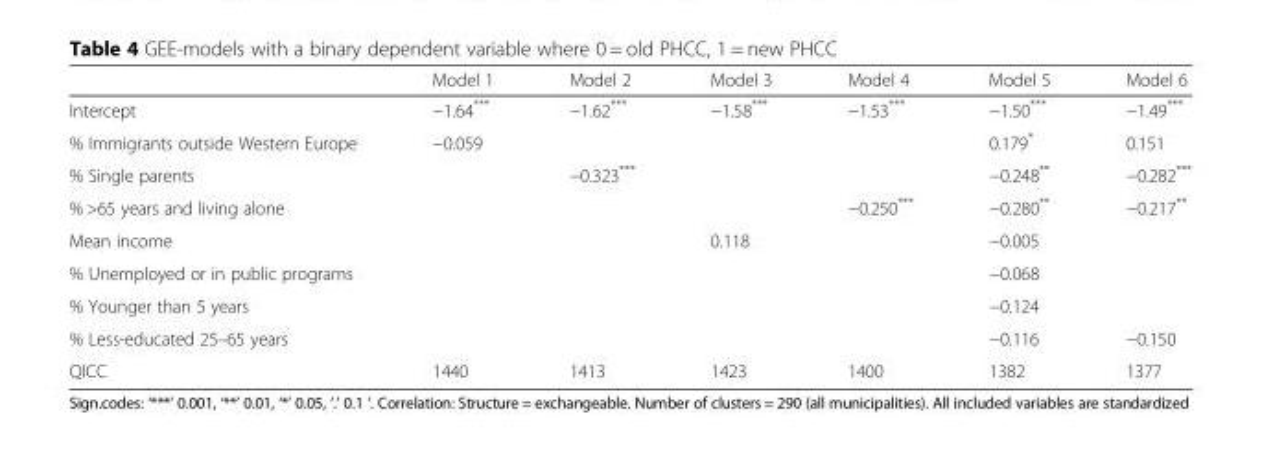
<table><thead><tr><td></td><td>Model 1</td><td>Model 2</td><td>Model 3</td><td>Model 4</td><td>Model 5</td><td>Model 6</td></tr></thead><tbody><tr><td>Intercept</td><td>−1.64***</td><td>−1.62***</td><td>−1.58***</td><td>−1.53***</td><td>−1.50***</td><td>−1.49***</td></tr><tr><td>% Immigrants outside Western Europe</td><td>−0.059</td><td></td><td></td><td></td><td>0.179*</td><td>0.151</td></tr><tr><td>% Single parents</td><td></td><td>−0.323***</td><td></td><td></td><td>−0.248**</td><td>−0.282***</td></tr><tr><td>% &gt;65 years and living alone</td><td></td><td></td><td></td><td>−0.250***</td><td>−0.280**</td><td>−0.217**</td></tr><tr><td>Mean income</td><td></td><td></td><td>0.118</td><td></td><td>−0.005</td><td></td></tr><tr><td>% Unemployed or in public programs</td><td></td><td></td><td></td><td></td><td>−0.068</td><td></td></tr><tr><td>% Younger than 5 years</td><td></td><td></td><td></td><td></td><td>−0.124</td><td></td></tr><tr><td>% Less-educated 25–65 years</td><td></td><td></td><td></td><td></td><td>−0.116</td><td>−0.150</td></tr><tr><td>QICC</td><td>1440</td><td>1413</td><td>1423</td><td>1400</td><td>1382</td><td>1377</td></tr></tbody></table>